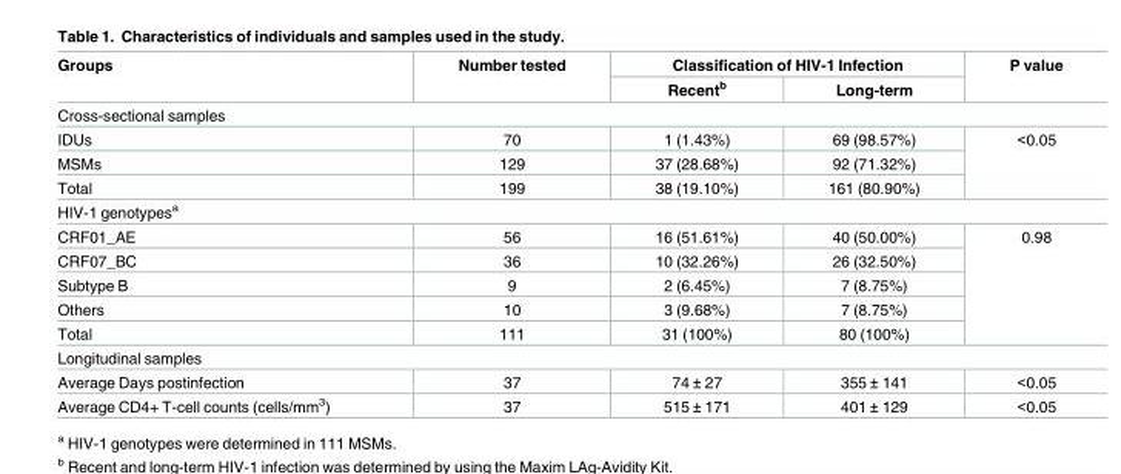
<table><thead><tr><td rowspan="2">Groups</td><td rowspan="2">Number tested</td><td colspan="2">Classification of HIV-1 Infection</td><td rowspan="2">P value</td></tr><tr><td>Recent<sup>b</sup></td><td>Long-term</td></tr></thead><tbody><tr><td colspan="5">Cross-sectional samples</td></tr><tr><td>IDUs</td><td>70</td><td>1 (1.43%)</td><td>69 (98.57%)</td><td rowspan="3">&lt;0.05</td></tr><tr><td>MSMs</td><td>129</td><td>37 (28.68%)</td><td>92 (71.32%)</td></tr><tr><td>Total</td><td>199</td><td>38 (19.10%)</td><td>161 (80.90%)</td></tr><tr><td colspan="5">HIV-1 genotypes<sup>a</sup></td></tr><tr><td>CRF01_AE</td><td>56</td><td>16 (51.61%)</td><td>40 (50.00%)</td><td rowspan="5">0.98</td></tr><tr><td>CRF07_BC</td><td>36</td><td>10 (32.26%)</td><td>26 (32.50%)</td></tr><tr><td>Subtype B</td><td>9</td><td>2 (6.45%)</td><td>7 (8.75%)</td></tr><tr><td>Others</td><td>10</td><td>3 (9.68%)</td><td>7 (8.75%)</td></tr><tr><td>Total</td><td>111</td><td>31 (100%)</td><td>80 (100%)</td></tr><tr><td colspan="5">Longitudinal samples</td></tr><tr><td>Average Days postinfection</td><td>37</td><td>74 ± 27</td><td>355 ± 141</td><td>&lt;0.05</td></tr><tr><td>Average CD4+ T-cell counts (cells/mm<sup>3</sup>)</td><td>37</td><td>515 ± 171</td><td>401 ± 129</td><td>&lt;0.05</td></tr></tbody></table>